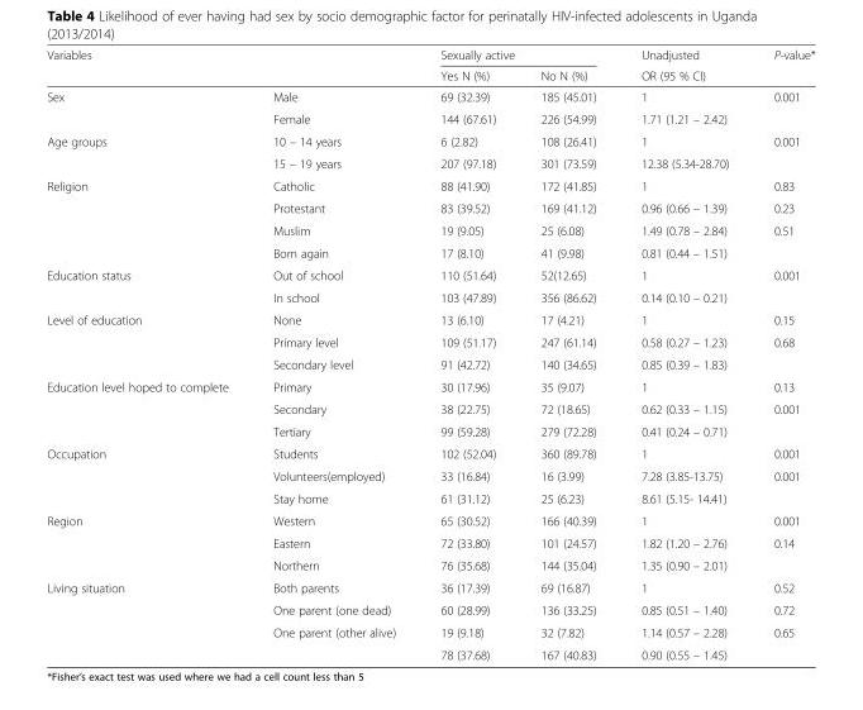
<table><thead><tr><td rowspan="2">Variables</td><td rowspan="2"></td><td colspan="2">Sexually active</td><td rowspan="2">Unadjusted OR (95 % CI)</td><td rowspan="2">P-value*</td></tr><tr><td>Yes N (%)</td><td>No N (%)</td></tr></thead><tbody><tr><td rowspan="2">Sex</td><td>Male</td><td>69 (32.39)</td><td>185 (45.01)</td><td>1</td><td rowspan="2">0.001</td></tr><tr><td>Female</td><td>144 (67.61)</td><td>226 (54.99)</td><td>1.71 (1.21 – 2.42)</td></tr><tr><td rowspan="2">Age groups</td><td>10 – 14 years</td><td>6 (2.82)</td><td>108 (26.41)</td><td>1</td><td rowspan="2">0.001</td></tr><tr><td>15 – 19 years</td><td>207 (97.18)</td><td>301 (73.59)</td><td>12.38 (5.34-28.70)</td></tr><tr><td rowspan="4">Religion</td><td>Catholic</td><td>88 (41.90)</td><td>172 (41.85)</td><td>1</td><td>0.83</td></tr><tr><td>Protestant</td><td>83 (39.52)</td><td>169 (41.12)</td><td>0.96 (0.66 – 1.39)</td><td>0.23</td></tr><tr><td>Muslim</td><td>19 (9.05)</td><td>25 (6.08)</td><td>1.49 (0.78 – 2.84)</td><td>0.51</td></tr><tr><td>Born again</td><td>17 (8.10)</td><td>41 (9.98)</td><td>0.81 (0.44 – 1.51)</td><td></td></tr><tr><td rowspan="2">Education status</td><td>Out of school</td><td>110 (51.64)</td><td>52(12.65)</td><td>1</td><td rowspan="2">0.001</td></tr><tr><td>In school</td><td>103 (47.89)</td><td>356 (86.62)</td><td>0.14 (0.10 – 0.21)</td></tr><tr><td rowspan="3">Level of education</td><td>None</td><td>13 (6.10)</td><td>17 (4.21)</td><td>1</td><td>0.15</td></tr><tr><td>Primary level</td><td>109 (51.17)</td><td>247 (61.14)</td><td>0.58 (0.27 – 1.23)</td><td rowspan="2">0.68</td></tr><tr><td>Secondary level</td><td>91 (42.72)</td><td>140 (34.65)</td><td>0.85 (0.39 – 1.83)</td></tr><tr><td rowspan="3">Education level hoped to complete</td><td>Primary</td><td>30 (17.96)</td><td>35 (9.07)</td><td>1</td><td>0.13</td></tr><tr><td>Secondary</td><td>38 (22.75)</td><td>72 (18.65)</td><td>0.62 (0.33 – 1.15)</td><td>0.001</td></tr><tr><td>Tertiary</td><td>99 (59.28)</td><td>279 (72.28)</td><td>0.41 (0.24 – 0.71)</td><td></td></tr><tr><td rowspan="3">Occupation</td><td>Students</td><td>102 (52.04)</td><td>360 (89.78)</td><td>1</td><td>0.001</td></tr><tr><td>Volunteers(employed)</td><td>33 (16.84)</td><td>16 (3.99)</td><td>7.28 (3.85-13.75)</td><td rowspan="2">0.001</td></tr><tr><td>Stay home</td><td>61 (31.12)</td><td>25 (6.23)</td><td>8.61 (5.15- 14.41)</td></tr><tr><td rowspan="3">Region</td><td>Western</td><td>65 (30.52)</td><td>166 (40.39)</td><td>1</td><td>0.001</td></tr><tr><td>Eastern</td><td>72 (33.80)</td><td>101 (24.57)</td><td>1.82 (1.20 – 2.76)</td><td rowspan="2">0.14</td></tr><tr><td>Northern</td><td>76 (35.68)</td><td>144 (35.04)</td><td>1.35 (0.90 – 2.01)</td></tr><tr><td rowspan="4">Living situation</td><td>Both parents</td><td>36 (17.39)</td><td>69 (16.87)</td><td>1</td><td>0.52</td></tr><tr><td>One parent (one dead)</td><td>60 (28.99)</td><td>136 (33.25)</td><td>0.85 (0.51 – 1.40)</td><td>0.72</td></tr><tr><td>One parent (other alive)</td><td>19 (9.18)</td><td>32 (7.82)</td><td>1.14 (0.57 – 2.28)</td><td>0.65</td></tr><tr><td></td><td>78 (37.68)</td><td>167 (40.83)</td><td>0.90 (0.55 – 1.45)</td><td></td></tr></tbody></table>